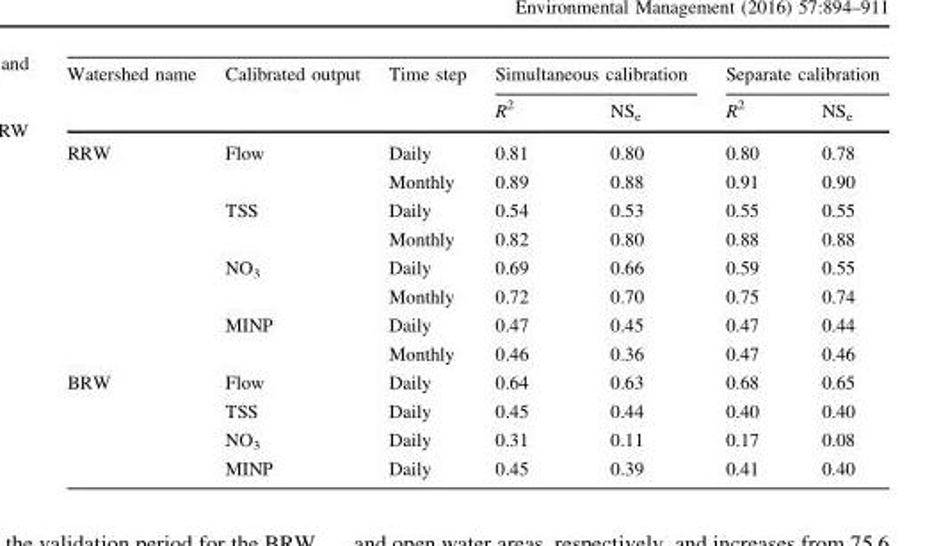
<table><thead><tr><td rowspan="2">Watershed name</td><td rowspan="2">Calibrated output</td><td rowspan="2">Time step</td><td colspan="2">Simultaneous calibration</td><td colspan="2">Separate calibration</td></tr><tr><td>R<sup>2</sup></td><td>NS<sub>e</sub></td><td>R<sup>2</sup></td><td>NS<sub>e</sub></td></tr></thead><tbody><tr><td rowspan="8">RRW</td><td rowspan="2">Flow</td><td>Daily</td><td>0.81</td><td>0.80</td><td>0.80</td><td>0.78</td></tr><tr><td>Monthly</td><td>0.89</td><td>0.88</td><td>0.91</td><td>0.90</td></tr><tr><td rowspan="2">TSS</td><td>Daily</td><td>0.54</td><td>0.53</td><td>0.55</td><td>0.55</td></tr><tr><td>Monthly</td><td>0.82</td><td>0.80</td><td>0.88</td><td>0.88</td></tr><tr><td rowspan="2">NO<sub>3</sub></td><td>Daily</td><td>0.69</td><td>0.66</td><td>0.59</td><td>0.55</td></tr><tr><td>Monthly</td><td>0.72</td><td>0.70</td><td>0.75</td><td>0.74</td></tr><tr><td rowspan="2">MINP</td><td>Daily</td><td>0.47</td><td>0.45</td><td>0.47</td><td>0.44</td></tr><tr><td>Monthly</td><td>0.46</td><td>0.36</td><td>0.47</td><td>0.46</td></tr><tr><td rowspan="4">BRW</td><td>Flow</td><td>Daily</td><td>0.64</td><td>0.63</td><td>0.68</td><td>0.65</td></tr><tr><td>TSS</td><td>Daily</td><td>0.45</td><td>0.44</td><td>0.40</td><td>0.40</td></tr><tr><td>NO<sub>3</sub></td><td>Daily</td><td>0.31</td><td>0.11</td><td>0.17</td><td>0.08</td></tr><tr><td>MINP</td><td>Daily</td><td>0.45</td><td>0.39</td><td>0.41</td><td>0.40</td></tr></tbody></table>